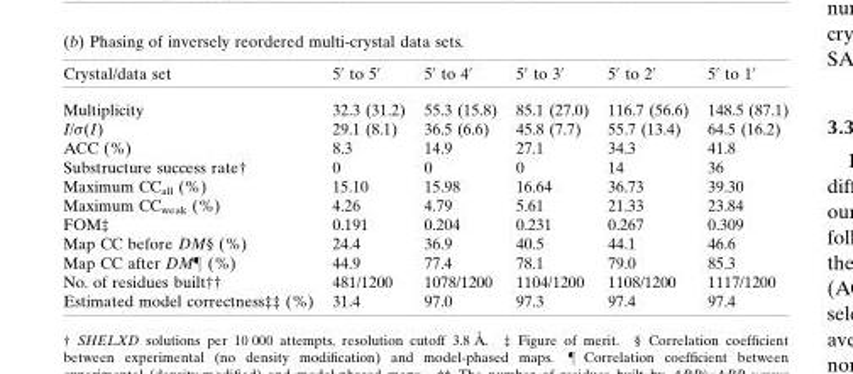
<table><thead><tr><td>Crystal/data set</td><td>50 to 50</td><td>50 to 40</td><td>50 to 30</td><td>50 to 20</td><td>50 to 10</td></tr></thead><tbody><tr><td>Multiplicity</td><td>32.3 (31.2)</td><td>55.3 (15.8)</td><td>85.1 (27.0)</td><td>116.7 (56.6)</td><td>148.5 (87.1)</td></tr><tr><td>I/�(I)</td><td>29.1 (8.1)</td><td>36.5 (6.6)</td><td>45.8 (7.7)</td><td>55.7 (13.4)</td><td>64.5 (16.2)</td></tr><tr><td>ACC (%)</td><td>8.3</td><td>14.9</td><td>27.1</td><td>34.3</td><td>41.8</td></tr><tr><td>Substructure success rate†</td><td>0</td><td>0</td><td>0</td><td>14</td><td>36</td></tr><tr><td>Maximum CC<sub>all</sub> (%)</td><td>15.10</td><td>15.98</td><td>16.64</td><td>36.73</td><td>39.30</td></tr><tr><td>Maximum CC<sub>weak</sub> (%)</td><td>4.26</td><td>4.79</td><td>5.61</td><td>21.33</td><td>23.84</td></tr><tr><td>FOM‡</td><td>0.191</td><td>0.204</td><td>0.231</td><td>0.267</td><td>0.309</td></tr><tr><td>Map CC before DM§ (%)</td><td>24.4</td><td>36.9</td><td>40.5</td><td>44.1</td><td>46.6</td></tr><tr><td>Map CC after DM} (%)</td><td>44.9</td><td>77.4</td><td>78.1</td><td>79.0</td><td>85.3</td></tr><tr><td>No. of residues built††</td><td>481/1200</td><td>1078/1200</td><td>1104/1200</td><td>1108/1200</td><td>1117/1200</td></tr><tr><td>Estimated model correctness‡‡ (%)</td><td>31.4</td><td>97.0</td><td>97.3</td><td>97.4</td><td>97.4</td></tr></tbody></table>